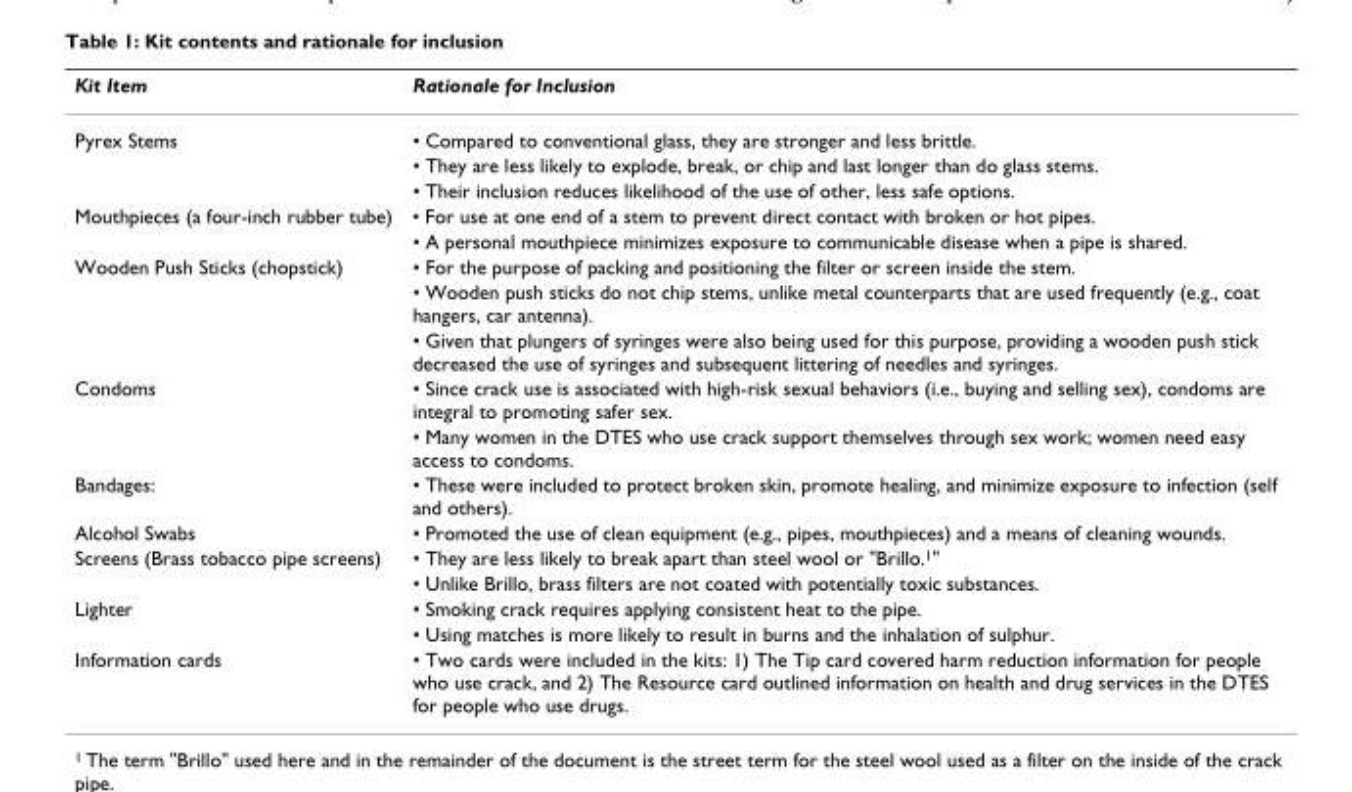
<table><thead><tr><td>Kit Item</td><td>Rationale for Inclusion</td></tr></thead><tbody><tr><td rowspan="3">Pyrex Stems</td><td>• Compared to conventional glass, they are stronger and less brittle.</td></tr><tr><td>• They are less likely to explode, break, or chip and last longer than do glass stems.</td></tr><tr><td>• Their inclusion reduces likelihood of the use of other, less safe options.</td></tr><tr><td rowspan="2">Mouthpieces (a four-inch rubber tube)</td><td>• For use at one end of a stem to prevent direct contact with broken or hot pipes.</td></tr><tr><td>• A personal mouthpiece minimizes exposure to communicable disease when a pipe is shared.</td></tr><tr><td rowspan="3">Wooden Push Sticks (chopstick)</td><td>• For the purpose of packing and positioning the filter or screen inside the stem.</td></tr><tr><td>• Wooden push sticks do not chip stems, unlike metal counterparts that are used frequently (e.g., coat hangers, car antenna).</td></tr><tr><td>• Given that plungers of syringes were also being used for this purpose, providing a wooden push stick decreased the use of syringes and subsequent littering of needles and syringes.</td></tr><tr><td rowspan="2">Condoms</td><td>• Since crack use is associated with high-risk sexual behaviors (i.e., buying and selling sex), condoms are integral to promoting safer sex.</td></tr><tr><td>• Many women in the DTES who use crack support themselves through sex work; women need easy access to condoms.</td></tr><tr><td>Bandages:</td><td>• These were included to protect broken skin, promote healing, and minimize exposure to infection (self and others).</td></tr><tr><td>Alcohol Swabs</td><td>• Promoted the use of clean equipment (e.g., pipes, mouthpieces) and a means of cleaning wounds.</td></tr><tr><td rowspan="2">Screens (Brass tobacco pipe screens)</td><td>• They are less likely to break apart than steel wool or &quot;Brillo.<sup>1</sup>&quot;</td></tr><tr><td>• Unlike Brillo, brass filters are not coated with potentially toxic substances.</td></tr><tr><td rowspan="2">Lighter</td><td>• Smoking crack requires applying consistent heat to the pipe.</td></tr><tr><td>• Using matches is more likely to result in burns and the inhalation of sulphur.</td></tr><tr><td>Information cards</td><td>• Two cards were included in the kits: 1) The Tip card covered harm reduction information for people who use crack, and 2) The Resource card outlined information on health and drug services in the DTES for people who use drugs.</td></tr></tbody></table>